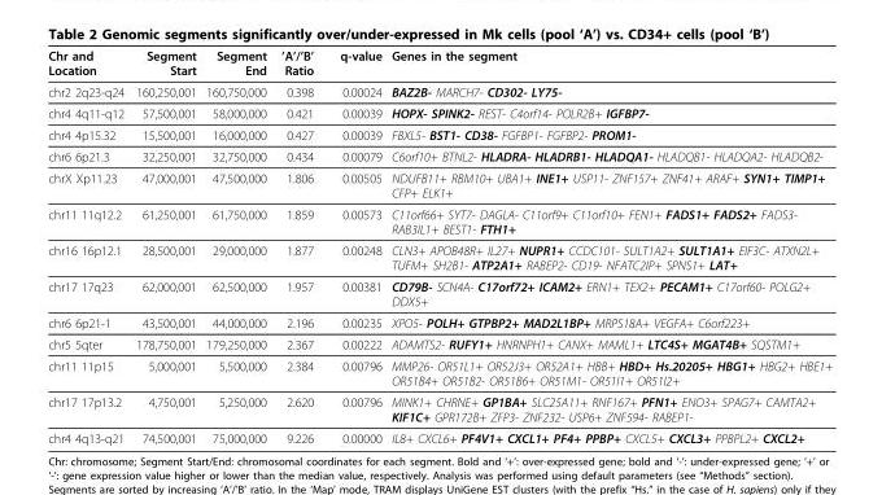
<table><thead><tr><td>Chr and Location</td><td>Segment Start</td><td>Segment End</td><td>’A’/’B’ Ratio</td><td>q-value</td><td>Genes in the segment</td></tr></thead><tbody><tr><td>chr2 2q23-q24</td><td>160,250,001</td><td>160,750,000</td><td>0.398</td><td>0.00024</td><td>BAZ2B- MARCH7- CD302- LY75-</td></tr><tr><td>chr4 4q11-q12</td><td>57,500,001</td><td>58,000,000</td><td>0.421</td><td>0.00039</td><td>HOPX- SPINK2- REST- C4orf14- POLR2B+ IGFBP7-</td></tr><tr><td>chr4 4p15.32</td><td>15,500,001</td><td>16,000,000</td><td>0.427</td><td>0.00039</td><td>FBXL5- BST1- CD38- FGFBP1- FGFBP2- PROM1-</td></tr><tr><td>chr6 6p21.3</td><td>32,250,001</td><td>32,750,000</td><td>0.434</td><td>0.00079</td><td>C6orf10+ BTNL2- HLADRA- HLADRB1- HLADQA1- HLADQB1- HLADQA2- HLADQB2-</td></tr><tr><td>chrX Xp11.23</td><td>47,000,001</td><td>47,500,000</td><td>1.806</td><td>0.00505</td><td>NDUFB11+ RBM10+ UBA1+ INE1+ USP11- ZNF157+ ZNF41+ ARAF+ SYN1+ TIMP1+ CFP+ ELK1+</td></tr><tr><td>chr11 11q12.2</td><td>61,250,001</td><td>61,750,000</td><td>1.859</td><td>0.00573</td><td>C11orf66+ SYT7- DAGLA- C11orf9+ C11orf10+ FEN1+ FADS1+ FADS2+ FADS3- RAB3IL1+ BEST1- FTH1+</td></tr><tr><td>chr16 16p12.1</td><td>28,500,001</td><td>29,000,000</td><td>1.877</td><td>0.00248</td><td>CLN3+ APOB48R+ IL27+ NUPR1+ CCDC101- SULT1A2+ SULT1A1+ EIF3C- ATXN2L+ TUFM+ SH2B1- ATP2A1+ RABEP2- CD19- NFATC2IP+ SPNS1+ LAT+</td></tr><tr><td>chr17 17q23</td><td>62,000,001</td><td>62,500,000</td><td>1.957</td><td>0.00381</td><td>CD79B- SCN4A- C17orf72+ ICAM2+ ERN1+ TEX2+ PECAM1+ C17orf60- POLG2+ DDX5+</td></tr><tr><td>chr6 6p21-1</td><td>43,500,001</td><td>44,000,000</td><td>2.196</td><td>0.00235</td><td>XPO5- POLH+ GTPBP2+ MAD2L1BP+ MRPS18A+ VEGFA+ C6orf223+</td></tr><tr><td>chr5 5qter</td><td>178,750,001</td><td>179,250,000</td><td>2.367</td><td>0.00222</td><td>ADAMTS2- RUFY1+ HNRNPH1+ CANX+ MAML1+ LTC4S+ MGAT4B+ SQSTM1+</td></tr><tr><td>chr11 11p15</td><td>5,000,001</td><td>5,500,000</td><td>2.384</td><td>0.00796</td><td>MMP26- OR51L1+ OR52J3+ OR52A1+ HBB+ HBD+ Hs.20205+ HBG1+ HBG2+ HBE1+ OR51B4+ OR51B2- OR51B6+ OR51M1- OR51I1+ OR51I2+</td></tr><tr><td>chr17 17p13.2</td><td>4,750,001</td><td>5,250,000</td><td>2.620</td><td>0.00796</td><td>MINK1+ CHRNE+ GP1BA+ SLC25A11+ RNF167+ PFN1+ ENO3+ SPAG7+ CAMTA2+ KIF1C+ GPR172B+ ZFP3- ZNF232- USP6+ ZNF594- RABEP1-</td></tr><tr><td>chr4 4q13-q21</td><td>74,500,001</td><td>75,000,000</td><td>9.226</td><td>0.00000</td><td>IL8+ CXCL6+ PF4V1+ CXCL1+ PF4+ PPBP+ CXCL5+ CXCL3+ PPBPL2+ CXCL2+</td></tr></tbody></table>